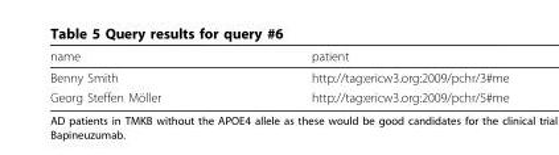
<table><thead><tr><td>name</td><td>patient</td></tr></thead><tbody><tr><td>Benny Smith</td><td>http://tag:ericw3.org:2009/pchr/3#me</td></tr><tr><td>Georg Steffen Möller</td><td>http://tag:ericw3.org:2009/pchr/5#me</td></tr></tbody></table>